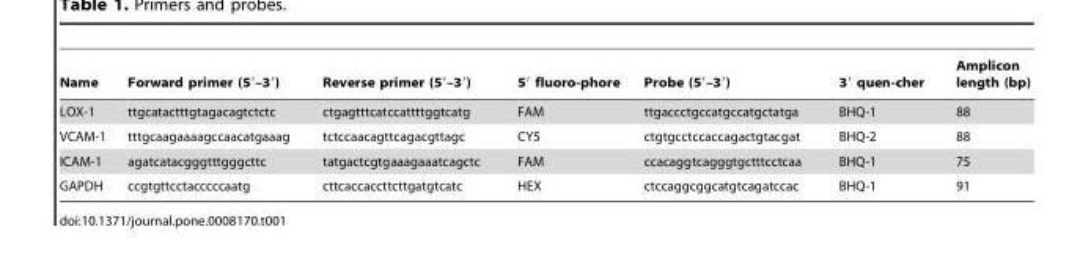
<table><thead><tr><td>Name</td><td>Forward primer (5′–3′)</td><td>Reverse primer (5′–3′)</td><td>5′ fluoro-phore</td><td>Probe (5′–3′)</td><td>3′ quen-cher</td><td>Amplicon length (bp)</td></tr></thead><tbody><tr><td>LOX-1</td><td>ttgcatactttgtagacagtctctc</td><td>ctgagtttcatccattttggtcatg</td><td>FAM</td><td>ttgaccctgccatgccatgctatga</td><td>BHQ-1</td><td>88</td></tr><tr><td>VCAM-1</td><td>tttgcaagaaaagccaacatgaaag</td><td>tctccaacagttcagacgttagc</td><td>CY5</td><td>ctgtgcctccaccagactgtacgat</td><td>BHQ-2</td><td>88</td></tr><tr><td>ICAM-1</td><td>agatcatacgggtttgggcttc</td><td>tatgactcgtgaaagaaatcagctc</td><td>FAM</td><td>ccacaggtcagggtgctttcctcaa</td><td>BHQ-1</td><td>75</td></tr><tr><td>GAPDH</td><td>ccgtgttcctacccccaatg</td><td>cttcaccaccttcttgatgtcatc</td><td>HEX</td><td>ctccaggcggcatgtcagatccac</td><td>BHQ-1</td><td>91</td></tr></tbody></table>